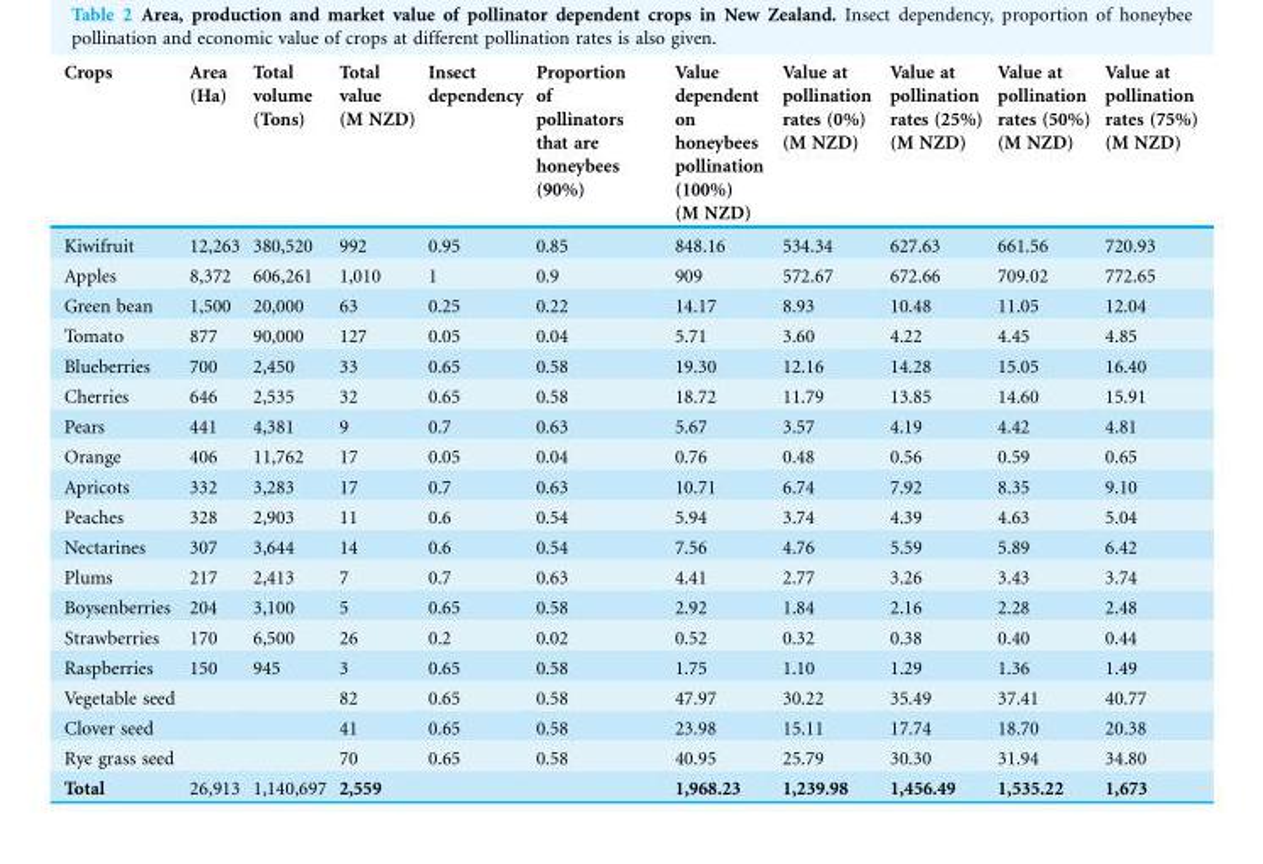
<table><thead><tr><td>Crops</td><td>Area (Ha)</td><td>Total volume (Tons)</td><td>Total value (M NZD)</td><td>Insect dependency</td><td>Proportion of pollinators that are honeybees (90%)</td><td>Value dependent on honeybees pollination (100%) (M NZD)</td><td>Value at pollination rates (0%) (M NZD)</td><td>Value at pollination rates (25%) (M NZD)</td><td>Value at pollination rates (50%) (M NZD)</td><td>Value at pollination rates (75%) (M NZD)</td></tr></thead><tbody><tr><td>Kiwifruit</td><td>12,263</td><td>380,520</td><td>992</td><td>0.95</td><td>0.85</td><td>848.16</td><td>534.34</td><td>627.63</td><td>661.56</td><td>720.93</td></tr><tr><td>Apples</td><td>8,372</td><td>606,261</td><td>1,010</td><td>1</td><td>0.9</td><td>909</td><td>572.67</td><td>672.66</td><td>709.02</td><td>772.65</td></tr><tr><td>Green bean</td><td>1,500</td><td>20,000</td><td>63</td><td>0.25</td><td>0.22</td><td>14.17</td><td>8.93</td><td>10.48</td><td>11.05</td><td>12.04</td></tr><tr><td>Tomato</td><td>877</td><td>90,000</td><td>127</td><td>0.05</td><td>0.04</td><td>5.71</td><td>3.60</td><td>4.22</td><td>4.45</td><td>4.85</td></tr><tr><td>Blueberries</td><td>700</td><td>2,450</td><td>33</td><td>0.65</td><td>0.58</td><td>19.30</td><td>12.16</td><td>14.28</td><td>15.05</td><td>16.40</td></tr><tr><td>Cherries</td><td>646</td><td>2,535</td><td>32</td><td>0.65</td><td>0.58</td><td>18.72</td><td>11.79</td><td>13.85</td><td>14.60</td><td>15.91</td></tr><tr><td>Pears</td><td>441</td><td>4,381</td><td>9</td><td>0.7</td><td>0.63</td><td>5.67</td><td>3.57</td><td>4.19</td><td>4.42</td><td>4.81</td></tr><tr><td>Orange</td><td>406</td><td>11,762</td><td>17</td><td>0.05</td><td>0.04</td><td>0.76</td><td>0.48</td><td>0.56</td><td>0.59</td><td>0.65</td></tr><tr><td>Apricots</td><td>332</td><td>3,283</td><td>17</td><td>0.7</td><td>0.63</td><td>10.71</td><td>6.74</td><td>7.92</td><td>8.35</td><td>9.10</td></tr><tr><td>Peaches</td><td>328</td><td>2,903</td><td>11</td><td>0.6</td><td>0.54</td><td>5.94</td><td>3.74</td><td>4.39</td><td>4.63</td><td>5.04</td></tr><tr><td>Nectarines</td><td>307</td><td>3,644</td><td>14</td><td>0.6</td><td>0.54</td><td>7.56</td><td>4.76</td><td>5.59</td><td>5.89</td><td>6.42</td></tr><tr><td>Plums</td><td>217</td><td>2,413</td><td>7</td><td>0.7</td><td>0.63</td><td>4.41</td><td>2.77</td><td>3.26</td><td>3.43</td><td>3.74</td></tr><tr><td>Boysenberries</td><td>204</td><td>3,100</td><td>5</td><td>0.65</td><td>0.58</td><td>2.92</td><td>1.84</td><td>2.16</td><td>2.28</td><td>2.48</td></tr><tr><td>Strawberries</td><td>170</td><td>6,500</td><td>26</td><td>0.2</td><td>0.02</td><td>0.52</td><td>0.32</td><td>0.38</td><td>0.40</td><td>0.44</td></tr><tr><td>Raspberries</td><td>150</td><td>945</td><td>3</td><td>0.65</td><td>0.58</td><td>1.75</td><td>1.10</td><td>1.29</td><td>1.36</td><td>1.49</td></tr><tr><td>Vegetable seed</td><td></td><td></td><td>82</td><td>0.65</td><td>0.58</td><td>47.97</td><td>30.22</td><td>35.49</td><td>37.41</td><td>40.77</td></tr><tr><td>Clover seed</td><td></td><td></td><td>41</td><td>0.65</td><td>0.58</td><td>23.98</td><td>15.11</td><td>17.74</td><td>18.70</td><td>20.38</td></tr><tr><td>Rye grass seed</td><td></td><td></td><td>70</td><td>0.65</td><td>0.58</td><td>40.95</td><td>25.79</td><td>30.30</td><td>31.94</td><td>34.80</td></tr><tr><td>Total</td><td>26,913</td><td>1,140,697</td><td>2,559</td><td></td><td></td><td>1,968.23</td><td>1,239.98</td><td>1,456.49</td><td>1,535.22</td><td>1,673</td></tr></tbody></table>